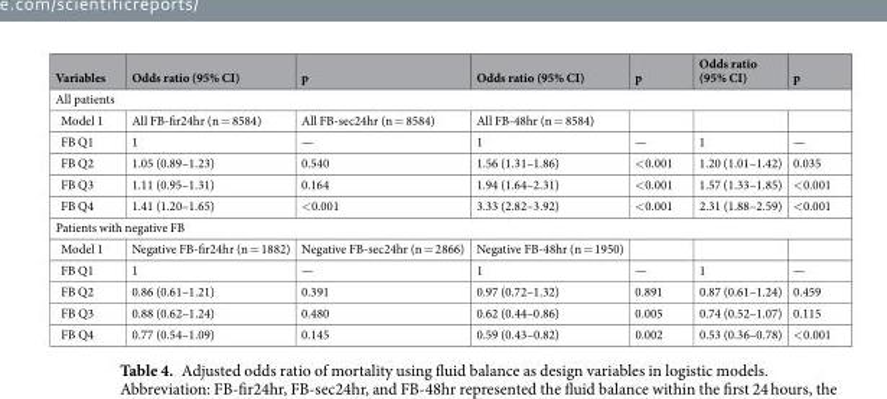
<table><thead><tr><td>Variables</td><td>Odds ratio (95% CI)</td><td>p</td><td>Odds ratio (95% CI)</td><td>p</td><td>Odds ratio (95% CI)</td><td>p</td></tr></thead><tbody><tr><td colspan="7">All patients</td></tr><tr><td>Model 1</td><td>All FB-fir24hr (n = 8584)</td><td>All FB-sec24hr (n = 8584)</td><td>All FB-48hr (n = 8584)</td><td></td><td></td><td></td></tr><tr><td>FB Q1</td><td>1</td><td>—</td><td>1</td><td>—</td><td>1</td><td>—</td></tr><tr><td>FB Q2</td><td>1.05 (0.89–1.23)</td><td>0.540</td><td>1.56 (1.31–1.86)</td><td>&lt;0.001</td><td>1.20 (1.01–1.42)</td><td>0.035</td></tr><tr><td>FB Q3</td><td>1.11 (0.95–1.31)</td><td>0.164</td><td>1.94 (1.64–2.31)</td><td>&lt;0.001</td><td>1.57 (1.33–1.85)</td><td>&lt;0.001</td></tr><tr><td>FB Q4</td><td>1.41 (1.20–1.65)</td><td>&lt;0.001</td><td>3.33 (2.82–3.92)</td><td>&lt;0.001</td><td>2.31 (1.88–2.59)</td><td>&lt;0.001</td></tr><tr><td colspan="7">Patients with negative FB</td></tr><tr><td>Model 1</td><td>Negative FB-fir24hr (n = 1882)</td><td>Negative FB-sec24hr (n = 2866)</td><td>Negative FB-48hr (n = 1950)</td><td></td><td></td><td></td></tr><tr><td>FB Q1</td><td>1</td><td>—</td><td>1</td><td>—</td><td>1</td><td>—</td></tr><tr><td>FB Q2</td><td>0.86 (0.61–1.21)</td><td>0.391</td><td>0.97 (0.72–1.32)</td><td>0.891</td><td>0.87 (0.61–1.24)</td><td>0.459</td></tr><tr><td>FB Q3</td><td>0.88 (0.62–1.24)</td><td>0.480</td><td>0.62 (0.44–0.86)</td><td>0.005</td><td>0.74 (0.52–1.07)</td><td>0.115</td></tr><tr><td>FB Q4</td><td>0.77 (0.54–1.09)</td><td>0.145</td><td>0.59 (0.43–0.82)</td><td>0.002</td><td>0.53 (0.36–0.78)</td><td>&lt;0.001</td></tr></tbody></table>